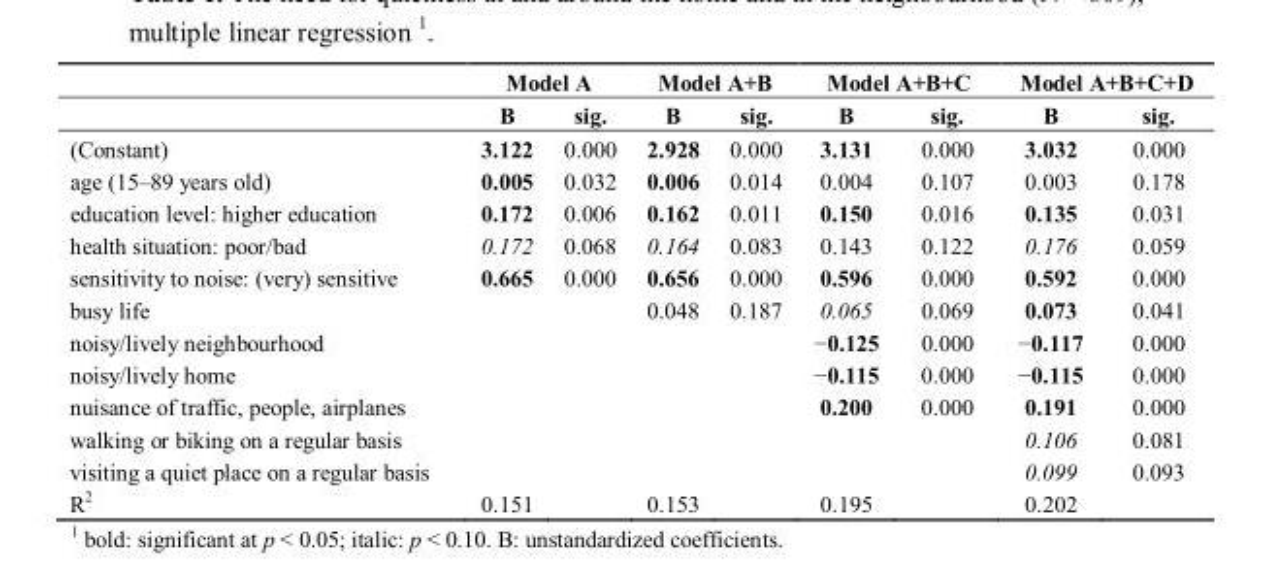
<table><thead><tr><td rowspan="2"></td><td colspan="2">Model A</td><td colspan="2">Model A+B</td><td colspan="2">Model A+B+C</td><td colspan="2">Model A+B+C+D</td></tr><tr><td>B</td><td>sig.</td><td>B</td><td>sig.</td><td>B</td><td>sig.</td><td>B</td><td>sig.</td></tr></thead><tbody><tr><td>(Constant)</td><td>3.122</td><td>0.000</td><td>2.928</td><td>0.000</td><td>3.131</td><td>0.000</td><td>3.032</td><td>0.000</td></tr><tr><td>age (15–89 years old)</td><td>0.005</td><td>0.032</td><td>0.006</td><td>0.014</td><td>0.004</td><td>0.107</td><td>0.003</td><td>0.178</td></tr><tr><td>education level: higher education</td><td>0.172</td><td>0.006</td><td>0.162</td><td>0.011</td><td>0.150</td><td>0.016</td><td>0.135</td><td>0.031</td></tr><tr><td>health situation: poor/bad</td><td>0.172</td><td>0.068</td><td>0.164</td><td>0.083</td><td>0.143</td><td>0.122</td><td>0.176</td><td>0.059</td></tr><tr><td>sensitivity to noise: (very) sensitive</td><td>0.665</td><td>0.000</td><td>0.656</td><td>0.000</td><td>0.596</td><td>0.000</td><td>0.592</td><td>0.000</td></tr><tr><td>busy life</td><td></td><td></td><td>0.048</td><td>0.187</td><td>0.065</td><td>0.069</td><td>0.073</td><td>0.041</td></tr><tr><td>noisy/lively neighbourhood</td><td></td><td></td><td></td><td></td><td>−0.125</td><td>0.000</td><td>−0.117</td><td>0.000</td></tr><tr><td>noisy/lively home</td><td></td><td></td><td></td><td></td><td>−0.115</td><td>0.000</td><td>−0.115</td><td>0.000</td></tr><tr><td>nuisance of traffic, people, airplanes</td><td></td><td></td><td></td><td></td><td>0.200</td><td>0.000</td><td>0.191</td><td>0.000</td></tr><tr><td>walking or biking on a regular basis</td><td></td><td></td><td></td><td></td><td></td><td></td><td>0.106</td><td>0.081</td></tr><tr><td>visiting a quiet place on a regular basis</td><td></td><td></td><td></td><td></td><td></td><td></td><td>0.099</td><td>0.093</td></tr><tr><td>R<sup>2</sup></td><td>0.151</td><td></td><td>0.153</td><td></td><td>0.195</td><td></td><td>0.202</td><td></td></tr></tbody></table>